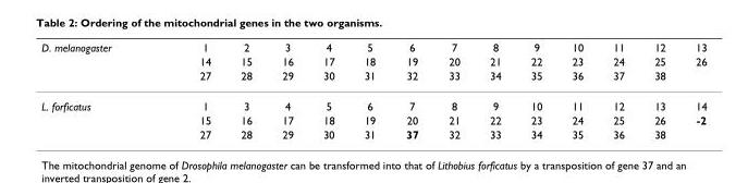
<table><thead><tr><td rowspan="3">D. melanogaster</td><td rowspan="3">1 14 27</td><td rowspan="3">2 15 28</td><td rowspan="3">3 16 29</td><td rowspan="3">4 17 30</td><td rowspan="3">5 18 31</td><td rowspan="3">6 19 32</td><td rowspan="3">7 20 33</td><td rowspan="3">8 21 34</td><td rowspan="3">9 22 35</td><td rowspan="3">10 23 36</td><td rowspan="3">11 24 37</td><td rowspan="3">12 25 38</td><td rowspan="3">13 26</td></tr><tr></tr><tr></tr></thead><tbody><tr><td rowspan="3">L. forficatus</td><td>1</td><td>3</td><td>4</td><td>5</td><td>6</td><td>7</td><td>8</td><td>9</td><td>10</td><td>11</td><td>12</td><td>13</td><td>14</td></tr><tr><td>15</td><td>16</td><td>17</td><td>18</td><td>19</td><td>20</td><td>21</td><td>22</td><td>23</td><td>24</td><td>25</td><td>26</td><td>-2</td></tr><tr><td>27</td><td>28</td><td>29</td><td>30</td><td>31</td><td>37</td><td>32</td><td>33</td><td>34</td><td>35</td><td>36</td><td>38</td><td></td></tr></tbody></table>